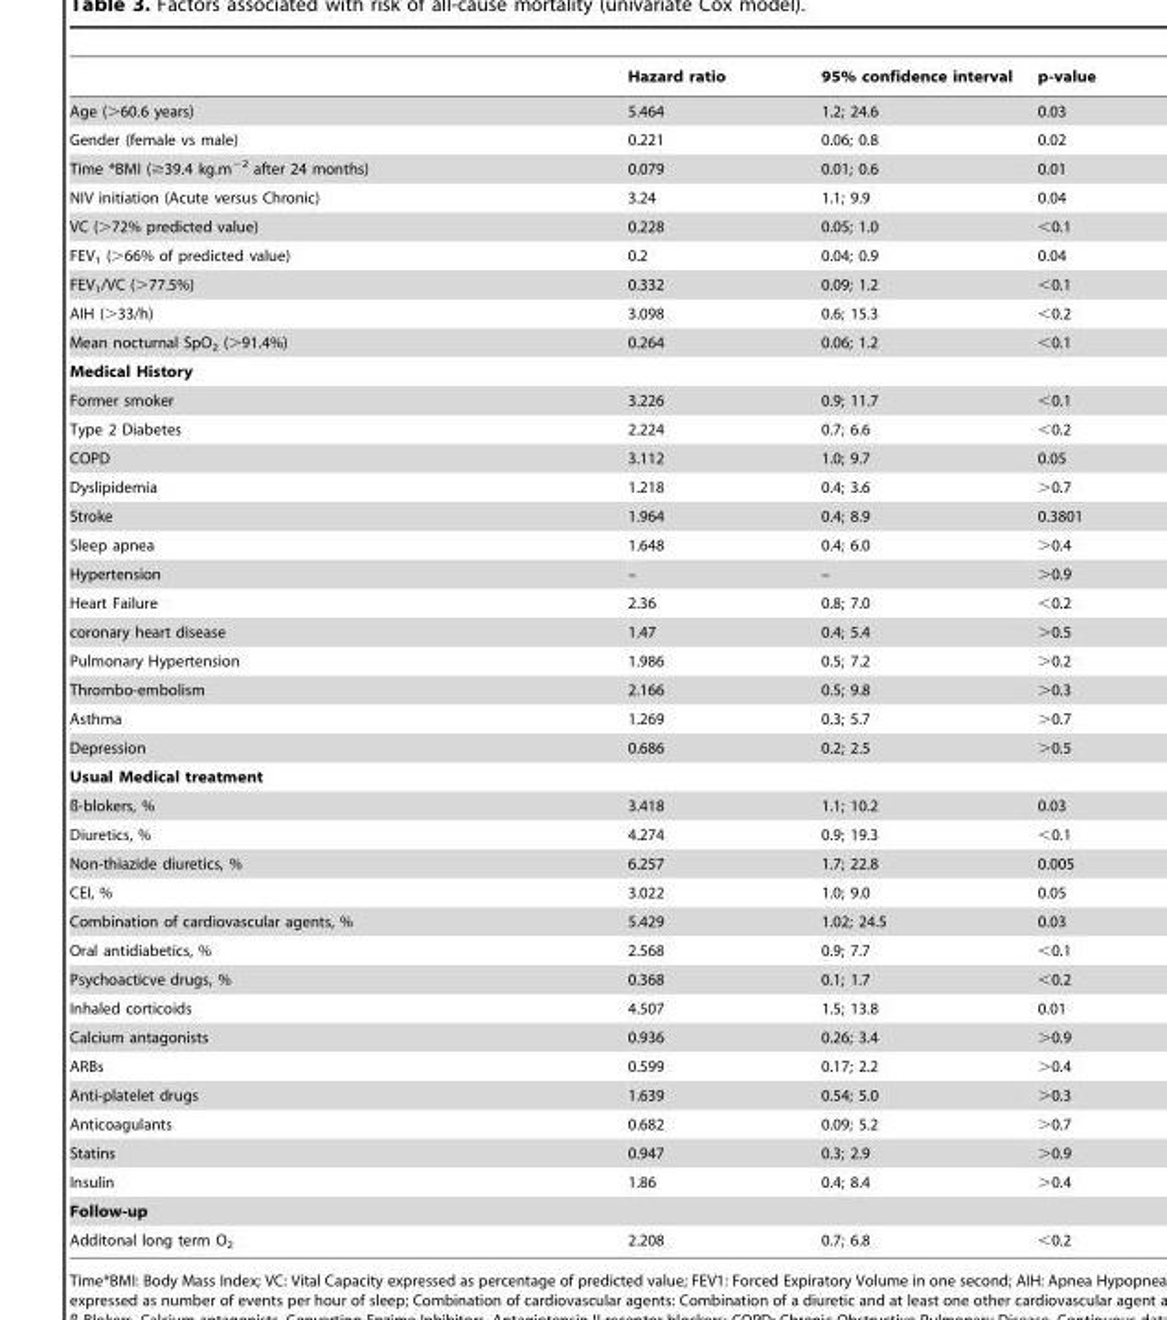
<table><thead><tr><td></td><td>Hazard ratio</td><td>95% confidence interval</td><td>p-value</td></tr></thead><tbody><tr><td>Age (&gt;60.6 years)</td><td>5.464</td><td>1.2; 24.6</td><td>0.03</td></tr><tr><td>Gender (female vs male)</td><td>0.221</td><td>0.06; 0.8</td><td>0.02</td></tr><tr><td>Time *BMI (≥39.4 kg.m<sup>−2</sup> after 24 months)</td><td>0.079</td><td>0.01; 0.6</td><td>0.01</td></tr><tr><td>NIV initiation (Acute versus Chronic)</td><td>3.24</td><td>1.1; 9.9</td><td>0.04</td></tr><tr><td>VC (&gt;72% predicted value)</td><td>0.228</td><td>0.05; 1.0</td><td>&lt;0.1</td></tr><tr><td>FEV<sub>1</sub> (&gt;66% of predicted value)</td><td>0.2</td><td>0.04; 0.9</td><td>0.04</td></tr><tr><td>FEV<sub>1</sub>/VC (&gt;77.5%)</td><td>0.332</td><td>0.09; 1.2</td><td>&lt;0.1</td></tr><tr><td>AIH (&gt;33/h)</td><td>3.098</td><td>0.6; 15.3</td><td>&lt;0.2</td></tr><tr><td>Mean nocturnal SpO<sub>2</sub> (&gt;91.4%)</td><td>0.264</td><td>0.06; 1.2</td><td>&lt;0.1</td></tr><tr><td colspan="4">Medical History</td></tr><tr><td>Former smoker</td><td>3.226</td><td>0.9; 11.7</td><td>&lt;0.1</td></tr><tr><td>Type 2 Diabetes</td><td>2.224</td><td>0.7; 6.6</td><td>&lt;0.2</td></tr><tr><td>COPD</td><td>3.112</td><td>1.0; 9.7</td><td>0.05</td></tr><tr><td>Dyslipidemia</td><td>1.218</td><td>0.4; 3.6</td><td>&gt;0.7</td></tr><tr><td>Stroke</td><td>1.964</td><td>0.4; 8.9</td><td>0.3801</td></tr><tr><td>Sleep apnea</td><td>1.648</td><td>0.4; 6.0</td><td>&gt;0.4</td></tr><tr><td>Hypertension</td><td>–</td><td>–</td><td>&gt;0.9</td></tr><tr><td>Heart Failure</td><td>2.36</td><td>0.8; 7.0</td><td>&lt;0.2</td></tr><tr><td>coronary heart disease</td><td>1.47</td><td>0.4; 5.4</td><td>&gt;0.5</td></tr><tr><td>Pulmonary Hypertension</td><td>1.986</td><td>0.5; 7.2</td><td>&gt;0.2</td></tr><tr><td>Thrombo-embolism</td><td>2.166</td><td>0.5; 9.8</td><td>&gt;0.3</td></tr><tr><td>Asthma</td><td>1.269</td><td>0.3; 5.7</td><td>&gt;0.7</td></tr><tr><td>Depression</td><td>0.686</td><td>0.2; 2.5</td><td>&gt;0.5</td></tr><tr><td colspan="4">Usual Medical treatment</td></tr><tr><td>ß-blokers, %</td><td>3.418</td><td>1.1; 10.2</td><td>0.03</td></tr><tr><td>Diuretics, %</td><td>4.274</td><td>0.9; 19.3</td><td>&lt;0.1</td></tr><tr><td>Non-thiazide diuretics, %</td><td>6.257</td><td>1.7; 22.8</td><td>0.005</td></tr><tr><td>CEI, %</td><td>3.022</td><td>1.0; 9.0</td><td>0.05</td></tr><tr><td>Combination of cardiovascular agents, %</td><td>5.429</td><td>1.02; 24.5</td><td>0.03</td></tr><tr><td>Oral antidiabetics, %</td><td>2.568</td><td>0.9; 7.7</td><td>&lt;0.1</td></tr><tr><td>Psychoacticve drugs, %</td><td>0.368</td><td>0.1; 1.7</td><td>&lt;0.2</td></tr><tr><td>Inhaled corticoids</td><td>4.507</td><td>1.5; 13.8</td><td>0.01</td></tr><tr><td>Calcium antagonists</td><td>0.936</td><td>0.26; 3.4</td><td>&gt;0.9</td></tr><tr><td>ARBs</td><td>0.599</td><td>0.17; 2.2</td><td>&gt;0.4</td></tr><tr><td>Anti-platelet drugs</td><td>1.639</td><td>0.54; 5.0</td><td>&gt;0.3</td></tr><tr><td>Anticoagulants</td><td>0.682</td><td>0.09; 5.2</td><td>&gt;0.7</td></tr><tr><td>Statins</td><td>0.947</td><td>0.3; 2.9</td><td>&gt;0.9</td></tr><tr><td>Insulin</td><td>1.86</td><td>0.4; 8.4</td><td>&gt;0.4</td></tr><tr><td colspan="4">Follow-up</td></tr><tr><td>Additonal long term O<sub>2</sub></td><td>2.208</td><td>0.7; 6.8</td><td>&lt;0.2</td></tr></tbody></table>